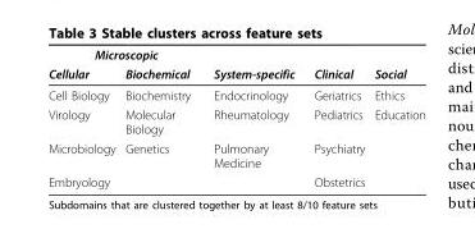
<table><thead><tr><td colspan="2">Microscopic</td><td rowspan="2">System-specific</td><td rowspan="2">Clinical</td><td rowspan="2">Social</td></tr><tr><td>Cellular</td><td>Biochemical</td></tr></thead><tbody><tr><td>Cell Biology</td><td>Biochemistry</td><td>Endocrinology</td><td>Geriatrics</td><td>Ethics</td></tr><tr><td>Virology</td><td>Molecular Biology</td><td>Rheumatology</td><td>Pediatrics</td><td>Education</td></tr><tr><td>Microbiology</td><td>Genetics</td><td>Pulmonary Medicine</td><td>Psychiatry</td><td></td></tr><tr><td>Embryology</td><td></td><td></td><td>Obstetrics</td><td></td></tr></tbody></table>